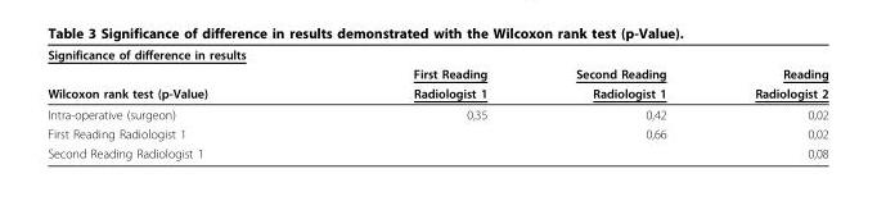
<table><thead><tr><td rowspan="3">Significance of difference in results Wilcoxon rank test (p-Value)</td><td rowspan="3">First Reading Radiologist 1</td><td rowspan="3">Second Reading Radiologist 1</td><td rowspan="3">Reading Radiologist 2</td></tr><tr></tr><tr></tr></thead><tbody><tr><td>Intra-operative (surgeon)</td><td>0,35</td><td>0,42</td><td>0,02</td></tr><tr><td>First Reading Radiologist 1</td><td></td><td>0,66</td><td>0,02</td></tr><tr><td>Second Reading Radiologist 1</td><td></td><td></td><td>0,08</td></tr></tbody></table>